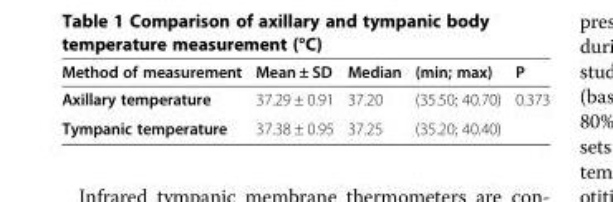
<table><thead><tr><td>Method of measurement</td><td>Mean ± SD</td><td>Median</td><td>(min; max)</td><td>P</td></tr></thead><tbody><tr><td>Axillary temperature</td><td>37.29 ± 0.91</td><td>37.20</td><td>(35.50; 40.70)</td><td>0.373</td></tr><tr><td>Tympanic temperature</td><td>37.38 ± 0.95</td><td>37.25</td><td>(35.20; 40.40)</td><td></td></tr></tbody></table>